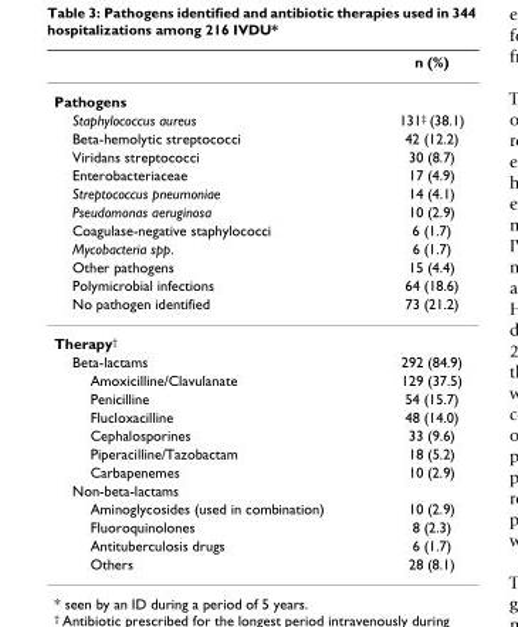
<table><thead><tr><td></td><td>n (%)</td></tr></thead><tbody><tr><td colspan="2">Pathogens</td></tr><tr><td>Staphylococcus aureus</td><td>131<sup>‡</sup> (38.1)</td></tr><tr><td>Beta-hemolytic streptococci</td><td>42 (12.2)</td></tr><tr><td>Viridans streptococci</td><td>30 (8.7)</td></tr><tr><td>Enterobacteriaceae</td><td>17 (4.9)</td></tr><tr><td>Streptococcus pneumoniae</td><td>14 (4.1)</td></tr><tr><td>Pseudomonas aeruginosa</td><td>10 (2.9)</td></tr><tr><td>Coagulase-negative staphylococci</td><td>6 (1.7)</td></tr><tr><td>Mycobacteria spp.</td><td>6 (1.7)</td></tr><tr><td>Other pathogens</td><td>15 (4.4)</td></tr><tr><td>Polymicrobial infections</td><td>64 (18.6)</td></tr><tr><td>No pathogen identified</td><td>73 (21.2)</td></tr><tr><td colspan="2">Therapy<sup>†</sup></td></tr><tr><td>Beta-lactams</td><td>292 (84.9)</td></tr><tr><td>Amoxicilline/Clavulanate</td><td>129 (37.5)</td></tr><tr><td>Penicilline</td><td>54 (15.7)</td></tr><tr><td>Flucloxacilline</td><td>48 (14.0)</td></tr><tr><td>Cephalosporines</td><td>33 (9.6)</td></tr><tr><td>Piperacilline/Tazobactam</td><td>18 (5.2)</td></tr><tr><td>Carbapenemes</td><td>10 (2.9)</td></tr><tr><td colspan="2">Non-beta-lactams</td></tr><tr><td>Aminoglycosides (used in combination)</td><td>10 (2.9)</td></tr><tr><td>Fluoroquinolones</td><td>8 (2.3)</td></tr><tr><td>Antituberculosis drugs</td><td>6 (1.7)</td></tr><tr><td>Others</td><td>28 (8.1)</td></tr></tbody></table>